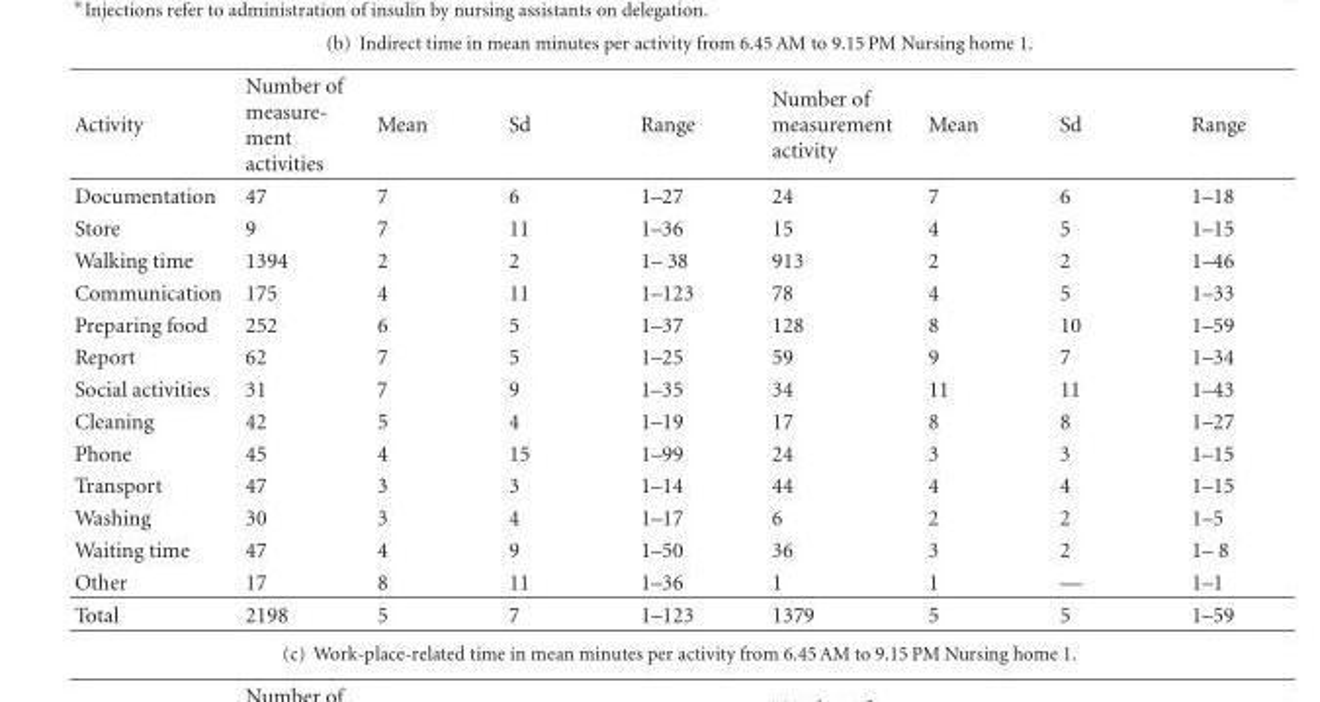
<table><thead><tr><td>Activity</td><td>Number of measure- ment activities</td><td>Mean</td><td>Sd</td><td>Range</td><td>Number of measurement activity</td><td>Mean</td><td>Sd</td><td>Range</td></tr></thead><tbody><tr><td>Documentation</td><td>47</td><td>7</td><td>6</td><td>1–27</td><td>24</td><td>7</td><td>6</td><td>1–18</td></tr><tr><td>Store</td><td>9</td><td>7</td><td>11</td><td>1–36</td><td>15</td><td>4</td><td>5</td><td>1–15</td></tr><tr><td>Walking time</td><td>1394</td><td>2</td><td>2</td><td>1– 38</td><td>913</td><td>2</td><td>2</td><td>1–46</td></tr><tr><td>Communication</td><td>175</td><td>4</td><td>11</td><td>1–123</td><td>78</td><td>4</td><td>5</td><td>1–33</td></tr><tr><td>Preparing food</td><td>252</td><td>6</td><td>5</td><td>1–37</td><td>128</td><td>8</td><td>10</td><td>1–59</td></tr><tr><td>Report</td><td>62</td><td>7</td><td>5</td><td>1–25</td><td>59</td><td>9</td><td>7</td><td>1–34</td></tr><tr><td>Social activities</td><td>31</td><td>7</td><td>9</td><td>1–35</td><td>34</td><td>11</td><td>11</td><td>1–43</td></tr><tr><td>Cleaning</td><td>42</td><td>5</td><td>4</td><td>1–19</td><td>17</td><td>8</td><td>8</td><td>1–27</td></tr><tr><td>Phone</td><td>45</td><td>4</td><td>15</td><td>1–99</td><td>24</td><td>3</td><td>3</td><td>1–15</td></tr><tr><td>Transport</td><td>47</td><td>3</td><td>3</td><td>1–14</td><td>44</td><td>4</td><td>4</td><td>1–15</td></tr><tr><td>Washing</td><td>30</td><td>3</td><td>4</td><td>1–17</td><td>6</td><td>2</td><td>2</td><td>1–5</td></tr><tr><td>Waiting time</td><td>47</td><td>4</td><td>9</td><td>1–50</td><td>36</td><td>3</td><td>2</td><td>1– 8</td></tr><tr><td>Other</td><td>17</td><td>8</td><td>11</td><td>1–36</td><td>1</td><td>1</td><td>—</td><td>1–1</td></tr><tr><td>Total</td><td>2198</td><td>5</td><td>7</td><td>1–123</td><td>1379</td><td>5</td><td>5</td><td>1–59</td></tr></tbody></table>